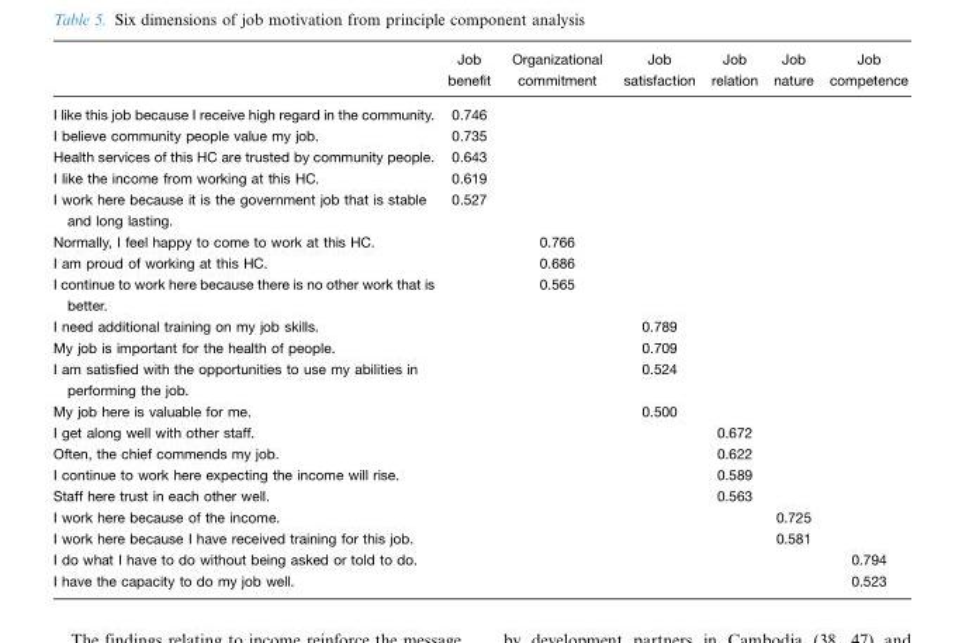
<table><thead><tr><td></td><td>Job benefit</td><td>Organizational commitment</td><td>Job satisfaction</td><td>Job relation</td><td>Job nature</td><td>Job competence</td></tr></thead><tbody><tr><td>I like this job because I receive high regard in the community.</td><td>0.746</td><td></td><td></td><td></td><td></td><td></td></tr><tr><td>I believe community people value my job.</td><td>0.735</td><td></td><td></td><td></td><td></td><td></td></tr><tr><td>Health services of this HC are trusted by community people.</td><td>0.643</td><td></td><td></td><td></td><td></td><td></td></tr><tr><td>I like the income from working at this HC.</td><td>0.619</td><td></td><td></td><td></td><td></td><td></td></tr><tr><td>I work here because it is the government job that is stable and long lasting.</td><td>0.527</td><td></td><td></td><td></td><td></td><td></td></tr><tr><td>Normally, I feel happy to come to work at this HC.</td><td></td><td>0.766</td><td></td><td></td><td></td><td></td></tr><tr><td>I am proud of working at this HC.</td><td></td><td>0.686</td><td></td><td></td><td></td><td></td></tr><tr><td>I continue to work here because there is no other work that is better.</td><td></td><td>0.565</td><td></td><td></td><td></td><td></td></tr><tr><td>I need additional training on my job skills.</td><td></td><td></td><td>0.789</td><td></td><td></td><td></td></tr><tr><td>My job is important for the health of people.</td><td></td><td></td><td>0.709</td><td></td><td></td><td></td></tr><tr><td>I am satisfied with the opportunities to use my abilities in performing the job.</td><td></td><td></td><td>0.524</td><td></td><td></td><td></td></tr><tr><td>My job here is valuable for me.</td><td></td><td></td><td>0.500</td><td></td><td></td><td></td></tr><tr><td>I get along well with other staff.</td><td></td><td></td><td></td><td>0.672</td><td></td><td></td></tr><tr><td>Often, the chief commends my job.</td><td></td><td></td><td></td><td>0.622</td><td></td><td></td></tr><tr><td>I continue to work here expecting the income will rise.</td><td></td><td></td><td></td><td>0.589</td><td></td><td></td></tr><tr><td>Staff here trust in each other well.</td><td></td><td></td><td></td><td>0.563</td><td></td><td></td></tr><tr><td>I work here because of the income.</td><td></td><td></td><td></td><td></td><td>0.725</td><td></td></tr><tr><td>I work here because I have received training for this job.</td><td></td><td></td><td></td><td></td><td>0.581</td><td></td></tr><tr><td>I do what I have to do without being asked or told to do.</td><td></td><td></td><td></td><td></td><td></td><td>0.794</td></tr><tr><td>I have the capacity to do my job well.</td><td></td><td></td><td></td><td></td><td></td><td>0.523</td></tr></tbody></table>